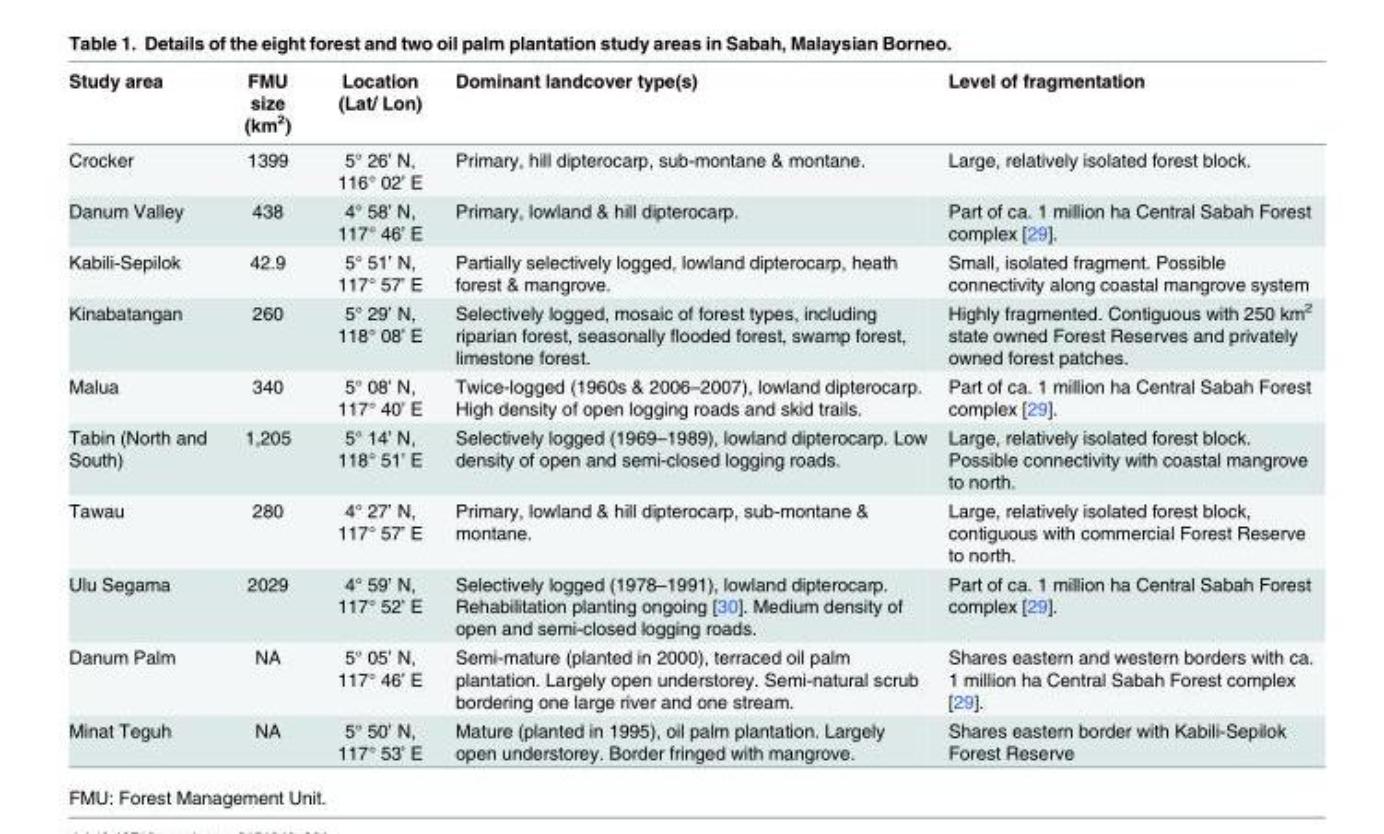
<table><thead><tr><td>Study area</td><td>FMU size (km<sup>2</sup>)</td><td>Location (Lat/ Lon)</td><td>Dominant landcover type(s)</td><td>Level of fragmentation</td></tr></thead><tbody><tr><td>Crocker</td><td>1399</td><td>5° 26’ N, 116° 02’ E</td><td>Primary, hill dipterocarp, sub-montane &amp; montane.</td><td>Large, relatively isolated forest block.</td></tr><tr><td>Danum Valley</td><td>438</td><td>4° 58’ N, 117° 46’ E</td><td>Primary, lowland &amp; hill dipterocarp.</td><td>Part of ca. 1 million ha Central Sabah Forest complex [29].</td></tr><tr><td>Kabili-Sepilok</td><td>42.9</td><td>5° 51’ N, 117° 57’ E</td><td>Partially selectively logged, lowland dipterocarp, heath forest &amp; mangrove.</td><td>Small, isolated fragment. Possible connectivity along coastal mangrove system</td></tr><tr><td>Kinabatangan</td><td>260</td><td>5° 29’ N, 118° 08’ E</td><td>Selectively logged, mosaic of forest types, including riparian forest, seasonally flooded forest, swamp forest, limestone forest.</td><td>Highly fragmented. Contiguous with 250 km<sup>2</sup> state owned Forest Reserves and privately owned forest patches.</td></tr><tr><td>Malua</td><td>340</td><td>5° 08’ N, 117° 40’ E</td><td>Twice-logged (1960s &amp; 2006–2007), lowland dipterocarp. High density of open logging roads and skid trails.</td><td>Part of ca. 1 million ha Central Sabah Forest complex [29].</td></tr><tr><td>Tabin (North and South)</td><td>1,205</td><td>5° 14’ N, 118° 51’ E</td><td>Selectively logged (1969–1989), lowland dipterocarp. Low density of open and semi-closed logging roads.</td><td>Large, relatively isolated forest block. Possible connectivity with coastal mangrove to north.</td></tr><tr><td>Tawau</td><td>280</td><td>4° 27’ N, 117° 57’ E</td><td>Primary, lowland &amp; hill dipterocarp, sub-montane &amp; montane.</td><td>Large, relatively isolated forest block, contiguous with commercial Forest Reserve to north.</td></tr><tr><td>Ulu Segama</td><td>2029</td><td>4° 59’ N, 117° 52’ E</td><td>Selectively logged (1978–1991), lowland dipterocarp. Rehabilitation planting ongoing [30]. Medium density of open and semi-closed logging roads.</td><td>Part of ca. 1 million ha Central Sabah Forest complex [29].</td></tr><tr><td>Danum Palm</td><td>NA</td><td>5° 05’ N, 117° 46’ E</td><td>Semi-mature (planted in 2000), terraced oil palm plantation. Largely open understorey. Semi-natural scrub bordering one large river and one stream.</td><td>Shares eastern and western borders with ca. 1 million ha Central Sabah Forest complex [29].</td></tr><tr><td>Minat Teguh</td><td>NA</td><td>5° 50’ N, 117° 53’ E</td><td>Mature (planted in 1995), oil palm plantation. Largely open understorey. Border fringed with mangrove.</td><td>Shares eastern border with Kabili-Sepilok Forest Reserve</td></tr></tbody></table>